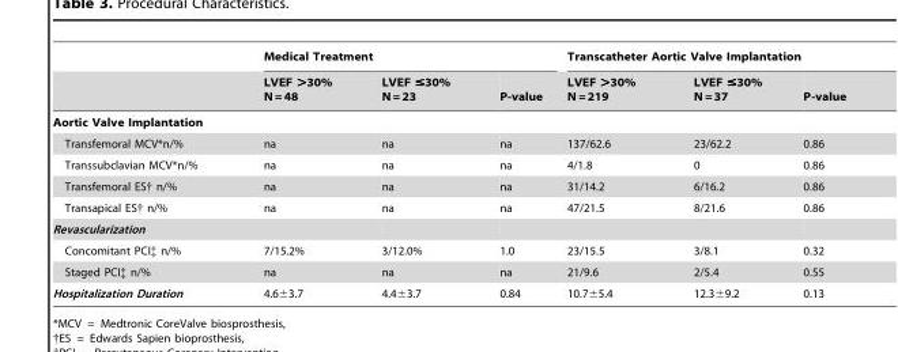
<table><thead><tr><td rowspan="2"></td><td colspan="3">Medical Treatment</td><td colspan="3">Transcatheter Aortic Valve Implantation</td></tr><tr><td>LVEF &gt;30% N = 48</td><td>LVEF ≤30% N = 23</td><td>P-value</td><td>LVEF &gt;30% N = 219</td><td>LVEF ≤30% N = 37</td><td>P-value</td></tr></thead><tbody><tr><td colspan="7">Aortic Valve Implantation</td></tr><tr><td>Transfemoral MCV*n/%</td><td>na</td><td>na</td><td>na</td><td>137/62.6</td><td>23/62.2</td><td>0.86</td></tr><tr><td>Transsubclavian MCV*n/%</td><td>na</td><td>na</td><td>na</td><td>4/1.8</td><td>0</td><td>0.86</td></tr><tr><td>Transfemoral ES† n/%</td><td>na</td><td>na</td><td>na</td><td>31/14.2</td><td>6/16.2</td><td>0.86</td></tr><tr><td>Transapical ES† n/%</td><td>na</td><td>na</td><td>na</td><td>47/21.5</td><td>8/21.6</td><td>0.86</td></tr><tr><td colspan="7">Revascularization</td></tr><tr><td>Concomitant PCI‡ n/%</td><td>7/15.2%</td><td>3/12.0%</td><td>1.0</td><td>23/15.5</td><td>3/8.1</td><td>0.32</td></tr><tr><td>Staged PCI‡ n/%</td><td>na</td><td>na</td><td>na</td><td>21/9.6</td><td>2/5.4</td><td>0.55</td></tr><tr><td>Hospitalization Duration</td><td>4.6±3.7</td><td>4.4±3.7</td><td>0.84</td><td>10.7±5.4</td><td>12.3±9.2</td><td>0.13</td></tr></tbody></table>